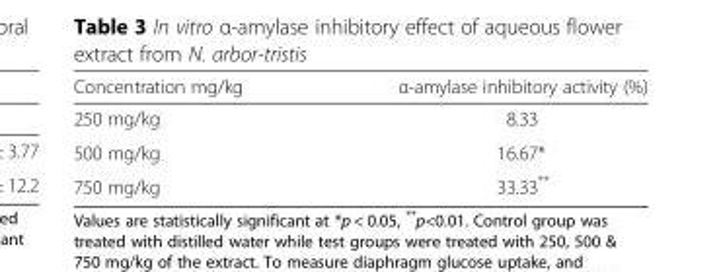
<table><thead><tr><td>Concentration mg/kg</td><td>α-amylase inhibitory activity (%)</td></tr></thead><tbody><tr><td>250 mg/kg</td><td>8.33</td></tr><tr><td>500 mg/kg</td><td>16.67*</td></tr><tr><td>750 mg/kg</td><td>33.33**</td></tr></tbody></table>